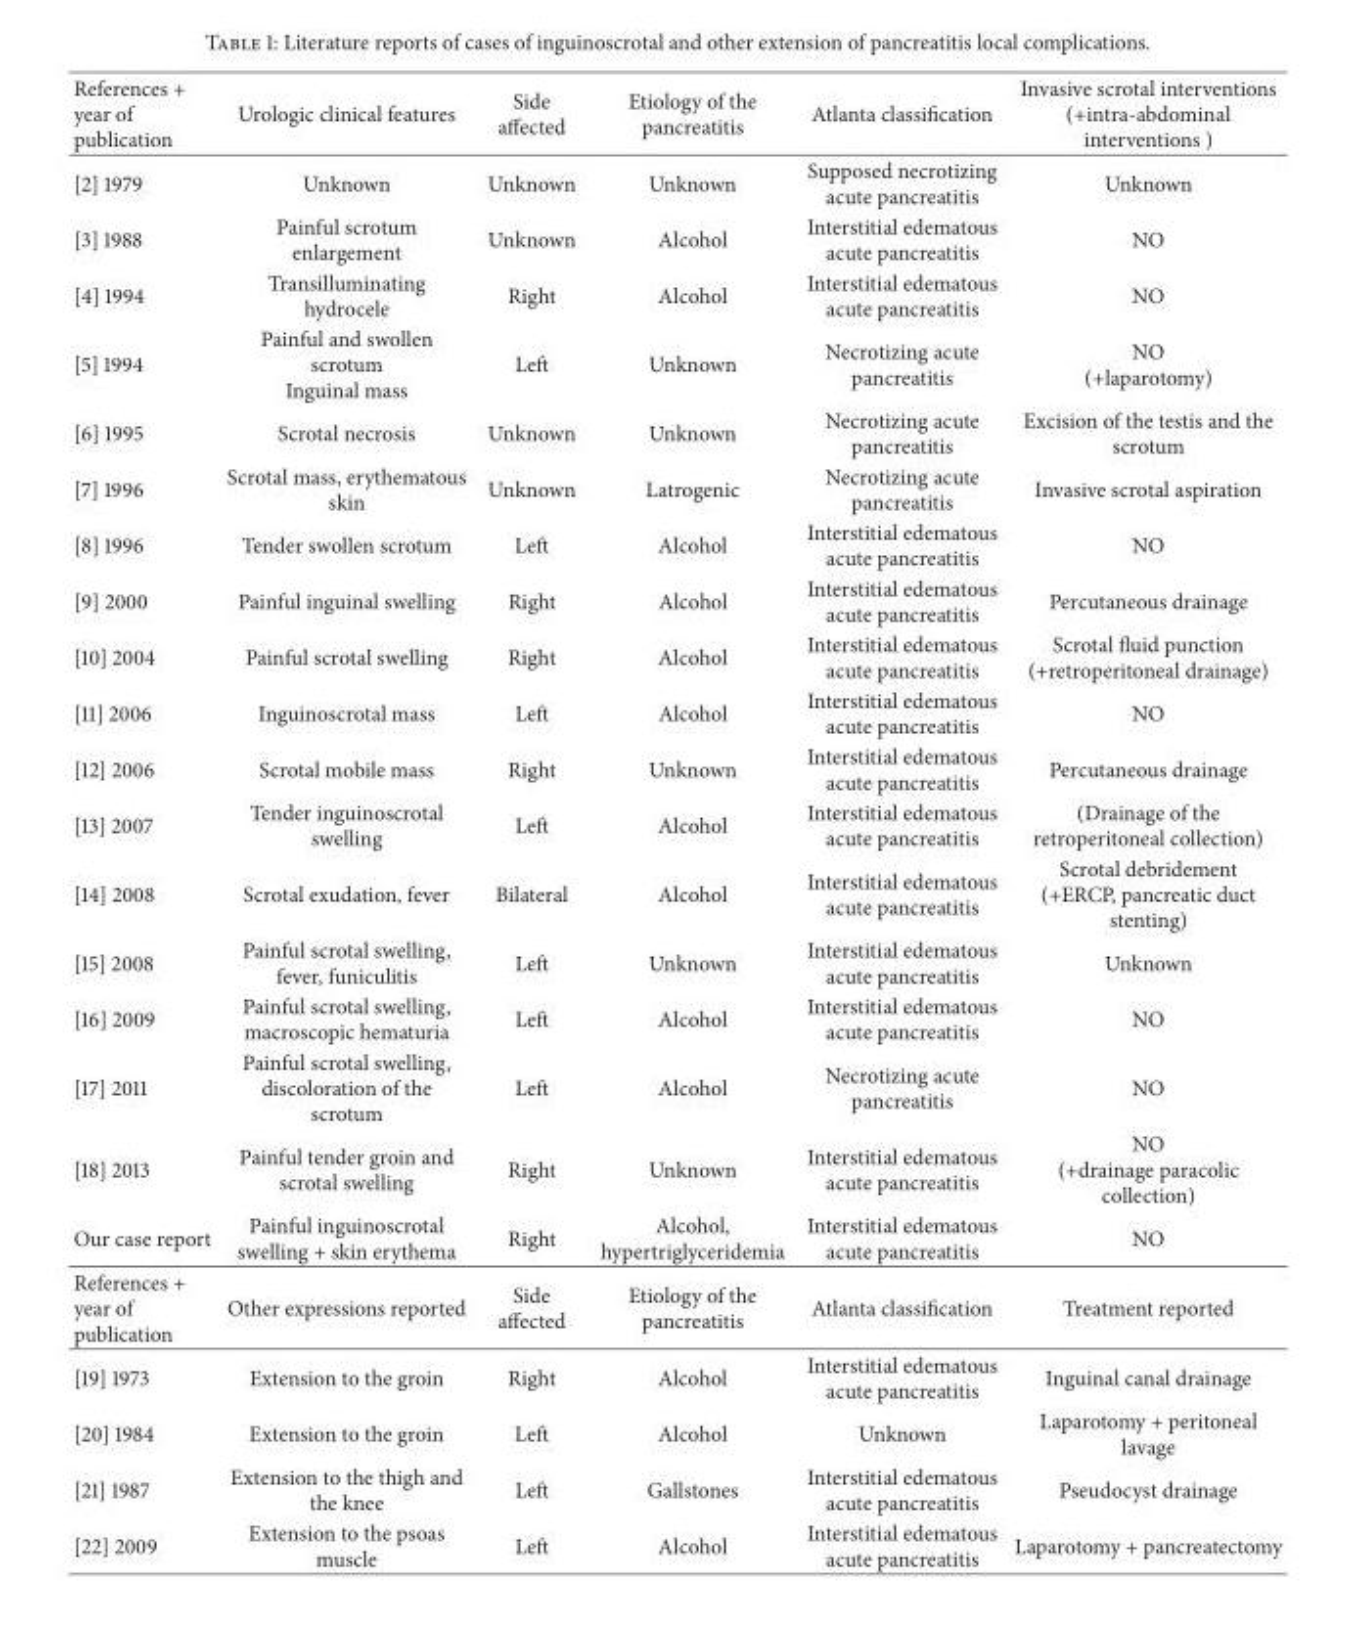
<table><thead><tr><td>References + year of publication</td><td>Urologic clinical features</td><td>Side affected</td><td>Etiology of the pancreatitis</td><td>Atlanta classification</td><td>Invasive scrotal interventions (+intra-abdominal interventions )</td></tr></thead><tbody><tr><td>[2] 1979</td><td>Unknown</td><td>Unknown</td><td>Unknown</td><td>Supposed necrotizing acute pancreatitis</td><td>Unknown</td></tr><tr><td>[3] 1988</td><td>Painful scrotum enlargement</td><td>Unknown</td><td>Alcohol</td><td>Interstitial edematous acute pancreatitis</td><td>NO</td></tr><tr><td>[4] 1994</td><td>Transilluminating hydrocele</td><td>Right</td><td>Alcohol</td><td>Interstitial edematous acute pancreatitis</td><td>NO</td></tr><tr><td>[5] 1994</td><td>Painful and swollen scrotum Inguinal mass</td><td>Left</td><td>Unknown</td><td>Necrotizing acute pancreatitis</td><td>NO (+laparotomy)</td></tr><tr><td>[6] 1995</td><td>Scrotal necrosis</td><td>Unknown</td><td>Unknown</td><td>Necrotizing acute pancreatitis</td><td>Excision of the testis and the scrotum</td></tr><tr><td>[7] 1996</td><td>Scrotal mass, erythematous skin</td><td>Unknown</td><td>Latrogenic</td><td>Necrotizing acute pancreatitis</td><td>Invasive scrotal aspiration</td></tr><tr><td>[8] 1996</td><td>Tender swollen scrotum</td><td>Left</td><td>Alcohol</td><td>Interstitial edematous acute pancreatitis</td><td>NO</td></tr><tr><td>[9] 2000</td><td>Painful inguinal swelling</td><td>Right</td><td>Alcohol</td><td>Interstitial edematous acute pancreatitis</td><td>Percutaneous drainage</td></tr><tr><td>[10] 2004</td><td>Painful scrotal swelling</td><td>Right</td><td>Alcohol</td><td>Interstitial edematous acute pancreatitis</td><td>Scrotal fluid punction (+retroperitoneal drainage)</td></tr><tr><td>[11] 2006</td><td>Inguinoscrotal mass</td><td>Left</td><td>Alcohol</td><td>Interstitial edematous acute pancreatitis</td><td>NO</td></tr><tr><td>[12] 2006</td><td>Scrotal mobile mass</td><td>Right</td><td>Unknown</td><td>Interstitial edematous acute pancreatitis</td><td>Percutaneous drainage</td></tr><tr><td>[13] 2007</td><td>Tender inguinoscrotal swelling</td><td>Left</td><td>Alcohol</td><td>Interstitial edematous acute pancreatitis</td><td>(Drainage of the retroperitoneal collection)</td></tr><tr><td>[14] 2008</td><td>Scrotal exudation, fever</td><td>Bilateral</td><td>Alcohol</td><td>Interstitial edematous acute pancreatitis</td><td>Scrotal debridement (+ERCP, pancreatic duct stenting)</td></tr><tr><td>[15] 2008</td><td>Painful scrotal swelling, fever, funiculitis</td><td>Left</td><td>Unknown</td><td>Interstitial edematous acute pancreatitis</td><td>Unknown</td></tr><tr><td>[16] 2009</td><td>Painful scrotal swelling, macroscopic hematuria</td><td>Left</td><td>Alcohol</td><td>Interstitial edematous acute pancreatitis</td><td>NO</td></tr><tr><td>[17] 2011</td><td>Painful scrotal swelling, discoloration of the scrotum</td><td>Left</td><td>Alcohol</td><td>Necrotizing acute pancreatitis</td><td>NO</td></tr><tr><td>[18] 2013</td><td>Painful tender groin and scrotal swelling</td><td>Right</td><td>Unknown</td><td>Interstitial edematous acute pancreatitis</td><td>NO (+drainage paracolic collection)</td></tr><tr><td>Our case report</td><td>Painful inguinoscrotal swelling + skin erythema</td><td>Right</td><td>Alcohol, hypertriglyceridemia</td><td>Interstitial edematous acute pancreatitis</td><td>NO</td></tr><tr><td>References + year of publication</td><td>Other expressions reported</td><td>Side affected</td><td>Etiology of the pancreatitis</td><td>Atlanta classification</td><td>Treatment reported</td></tr><tr><td>[19] 1973</td><td>Extension to the groin</td><td>Right</td><td>Alcohol</td><td>Interstitial edematous acute pancreatitis</td><td>Inguinal canal drainage</td></tr><tr><td>[20] 1984</td><td>Extension to the groin</td><td>Left</td><td>Alcohol</td><td>Unknown</td><td>Laparotomy + peritoneal lavage</td></tr><tr><td>[21] 1987</td><td>Extension to the thigh and the knee</td><td>Left</td><td>Gallstones</td><td>Interstitial edematous acute pancreatitis</td><td>Pseudocyst drainage</td></tr><tr><td>[22] 2009</td><td>Extension to the psoas muscle</td><td>Left</td><td>Alcohol</td><td>Interstitial edematous acute pancreatitis</td><td>Laparotomy + pancreatectomy</td></tr></tbody></table>